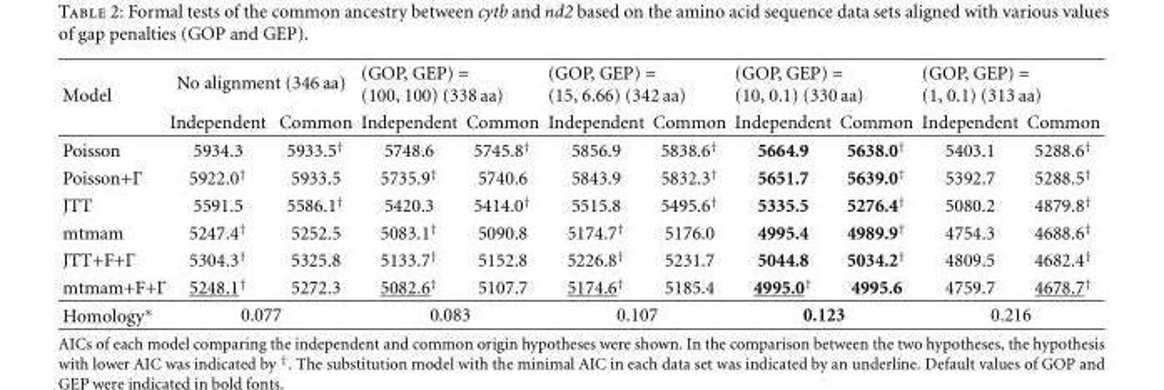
<table><thead><tr><td rowspan="2">Model</td><td colspan="2">No alignment (346 aa)</td><td colspan="2">(GOP, GEP) = (100, 100) (338 aa)</td><td colspan="2">(GOP, GEP) = (15, 6.66) (342 aa)</td><td colspan="2">(GOP, GEP) = (10, 0.1) (330 aa)</td><td colspan="2">(GOP, GEP) = (1, 0.1) (313 aa)</td></tr><tr><td>Independent</td><td>Common</td><td>Independent</td><td>Common</td><td>Independent</td><td>Common</td><td>Independent</td><td>Common</td><td>Independent</td><td>Common</td></tr></thead><tbody><tr><td>Poisson</td><td>5934.3</td><td>5933.5<sup>†</sup></td><td>5748.6</td><td>5745.8<sup>†</sup></td><td>5856.9</td><td>5838.6<sup>†</sup></td><td>5664.9</td><td>5638.0<sup>†</sup></td><td>5403.1</td><td>5288.6<sup>†</sup></td></tr><tr><td>Poisson+Γ</td><td>5922.0<sup>†</sup></td><td>5933.5</td><td>5735.9<sup>†</sup></td><td>5740.6</td><td>5843.9</td><td>5832.3<sup>†</sup></td><td>5651.7</td><td>5639.0<sup>†</sup></td><td>5392.7</td><td>5288.5<sup>†</sup></td></tr><tr><td>JTT</td><td>5591.5</td><td>5586.1<sup>†</sup></td><td>5420.3</td><td>5414.0<sup>†</sup></td><td>5515.8</td><td>5495.6<sup>†</sup></td><td>5335.5</td><td>5276.4<sup>†</sup></td><td>5080.2</td><td>4879.8<sup>†</sup></td></tr><tr><td>mtmam</td><td>5247.4<sup>†</sup></td><td>5252.5</td><td>5083.1<sup>†</sup></td><td>5090.8</td><td>5174.7<sup>†</sup></td><td>5176.0</td><td>4995.4</td><td>4989.9<sup>†</sup></td><td>4754.3</td><td>4688.6<sup>†</sup></td></tr><tr><td>JTT+F+Γ</td><td>5304.3<sup>†</sup></td><td>5325.8</td><td>5133.7<sup>†</sup></td><td>5152.8</td><td>5226.8<sup>†</sup></td><td>5231.7</td><td>5044.8</td><td>5034.2<sup>†</sup></td><td>4809.5</td><td>4682.4<sup>†</sup></td></tr><tr><td>mtmam+F+Γ</td><td>5248.1<sup>†</sup></td><td>5272.3</td><td>5082.6<sup>†</sup></td><td>5107.7</td><td>5174.6<sup>†</sup></td><td>5185.4</td><td>4995.0<sup>†</sup></td><td>4995.6</td><td>4759.7</td><td>4678.7<sup>†</sup></td></tr><tr><td>Homology∗</td><td colspan="2">0.077</td><td colspan="2">0.083</td><td colspan="2">0.107</td><td colspan="2">0.123</td><td colspan="2">0.216</td></tr></tbody></table>